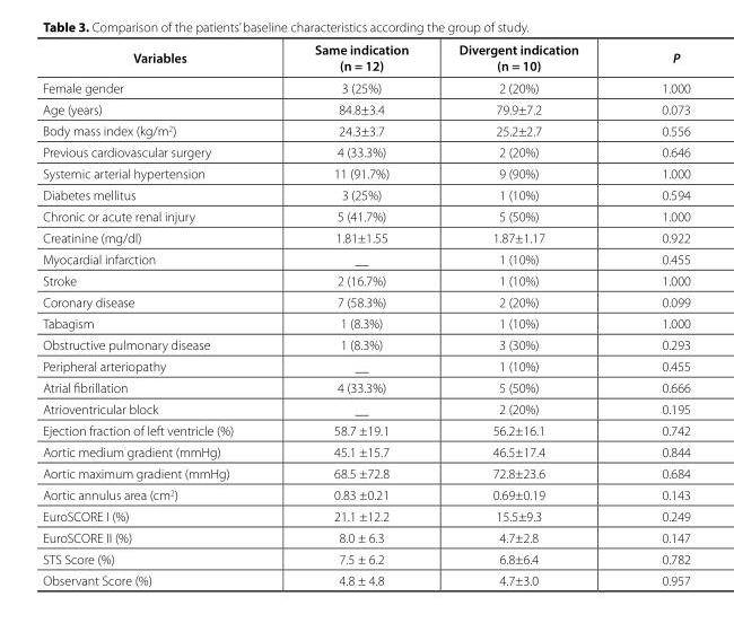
<table><thead><tr><td>Variables</td><td>Same indication (n = 12)</td><td>Divergent indication (n = 10)</td><td>P</td></tr></thead><tbody><tr><td>Female gender</td><td>3 (25%)</td><td>2 (20%)</td><td>1.000</td></tr><tr><td>Age (years)</td><td>84.8±3.4</td><td>79.9±7.2</td><td>0.073</td></tr><tr><td>Body mass index (kg/m<sup>2</sup>)</td><td>24.3±3.7</td><td>25.2±2.7</td><td>0.556</td></tr><tr><td>Previous cardiovascular surgery</td><td>4 (33.3%)</td><td>2 (20%)</td><td>0.646</td></tr><tr><td>Systemic arterial hypertension</td><td>11 (91.7%)</td><td>9 (90%)</td><td>1.000</td></tr><tr><td>Diabetes mellitus</td><td>3 (25%)</td><td>1 (10%)</td><td>0.594</td></tr><tr><td>Chronic or acute renal injury</td><td>5 (41.7%)</td><td>5 (50%)</td><td>1.000</td></tr><tr><td>Creatinine (mg/dl)</td><td>1.81±1.55</td><td>1.87±1.17</td><td>0.922</td></tr><tr><td>Myocardial infarction</td><td>__</td><td>1 (10%)</td><td>0.455</td></tr><tr><td>Stroke</td><td>2 (16.7%)</td><td>1 (10%)</td><td>1.000</td></tr><tr><td>Coronary disease</td><td>7 (58.3%)</td><td>2 (20%)</td><td>0.099</td></tr><tr><td>Tabagism</td><td>1 (8.3%)</td><td>1 (10%)</td><td>1.000</td></tr><tr><td>Obstructive pulmonary disease</td><td>1 (8.3%)</td><td>3 (30%)</td><td>0.293</td></tr><tr><td>Peripheral arteriopathy</td><td>__</td><td>1 (10%)</td><td>0.455</td></tr><tr><td>Atrial fibrillation</td><td>4 (33.3%)</td><td>5 (50%)</td><td>0.666</td></tr><tr><td>Atrioventricular block</td><td>__</td><td>2 (20%)</td><td>0.195</td></tr><tr><td>Ejection fraction of left ventricle (%)</td><td>58.7 ±19.1</td><td>56.2±16.1</td><td>0.742</td></tr><tr><td>Aortic medium gradient (mmHg)</td><td>45.1 ±15.7</td><td>46.5±17.4</td><td>0.844</td></tr><tr><td>Aortic maximum gradient (mmHg)</td><td>68.5 ±72.8</td><td>72.8±23.6</td><td>0.684</td></tr><tr><td>Aortic annulus area (cm<sup>2</sup>)</td><td>0.83 ±0.21</td><td>0.69±0.19</td><td>0.143</td></tr><tr><td>EuroSCORE I (%)</td><td>21.1 ±12.2</td><td>15.5±9.3</td><td>0.249</td></tr><tr><td>EuroSCORE II (%)</td><td>8.0 ± 6.3</td><td>4.7±2.8</td><td>0.147</td></tr><tr><td>STS Score (%)</td><td>7.5 ± 6.2</td><td>6.8±6.4</td><td>0.782</td></tr><tr><td>Observant Score (%)</td><td>4.8 ± 4.8</td><td>4.7±3.0</td><td>0.957</td></tr></tbody></table>